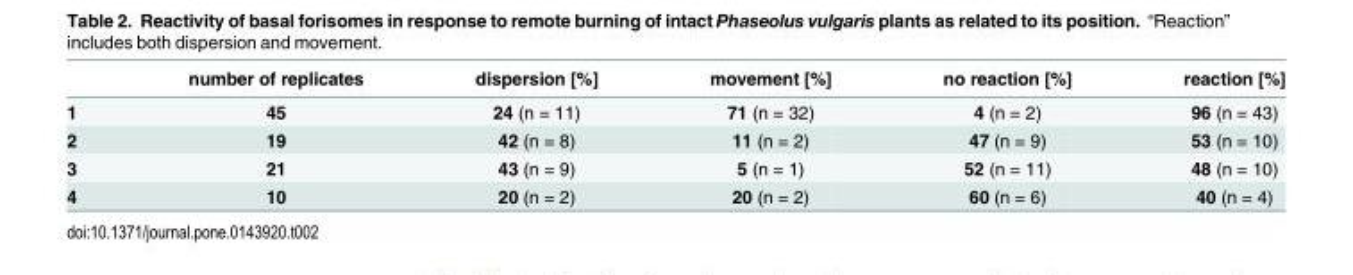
<table><thead><tr><td></td><td>number of replicates</td><td>dispersion [%]</td><td>movement [%]</td><td>no reaction [%]</td><td>reaction [%]</td></tr></thead><tbody><tr><td>1</td><td>45</td><td>24 (n = 11)</td><td>71 (n = 32)</td><td>4 (n = 2)</td><td>96 (n = 43)</td></tr><tr><td>2</td><td>19</td><td>42 (n = 8)</td><td>11 (n = 2)</td><td>47 (n = 9)</td><td>53 (n = 10)</td></tr><tr><td>3</td><td>21</td><td>43 (n = 9)</td><td>5 (n = 1)</td><td>52 (n = 11)</td><td>48 (n = 10)</td></tr><tr><td>4</td><td>10</td><td>20 (n = 2)</td><td>20 (n = 2)</td><td>60 (n = 6)</td><td>40 (n = 4)</td></tr></tbody></table>